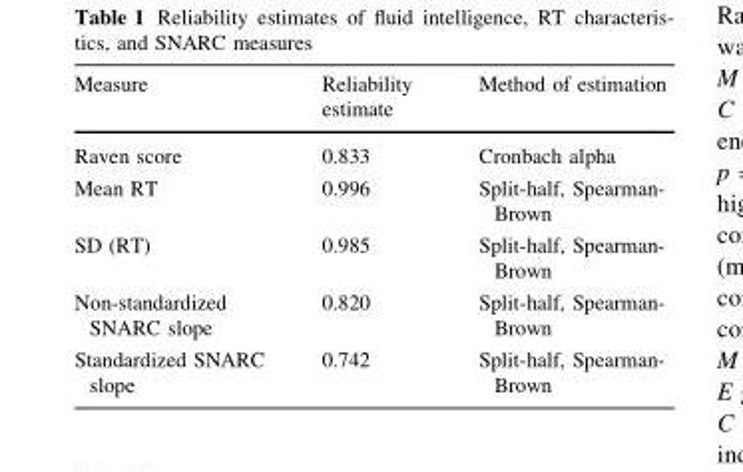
<table><thead><tr><td>Measure</td><td>Reliability estimate</td><td>Method of estimation</td></tr></thead><tbody><tr><td>Raven score</td><td>0.833</td><td>Cronbach alpha</td></tr><tr><td>Mean RT</td><td>0.996</td><td>Split-half, Spearman- Brown</td></tr><tr><td>SD (RT)</td><td>0.985</td><td>Split-half, Spearman- Brown</td></tr><tr><td>Non-standardized SNARC slope</td><td>0.820</td><td>Split-half, Spearman- Brown</td></tr><tr><td>Standardized SNARC slope</td><td>0.742</td><td>Split-half, Spearman- Brown</td></tr></tbody></table>